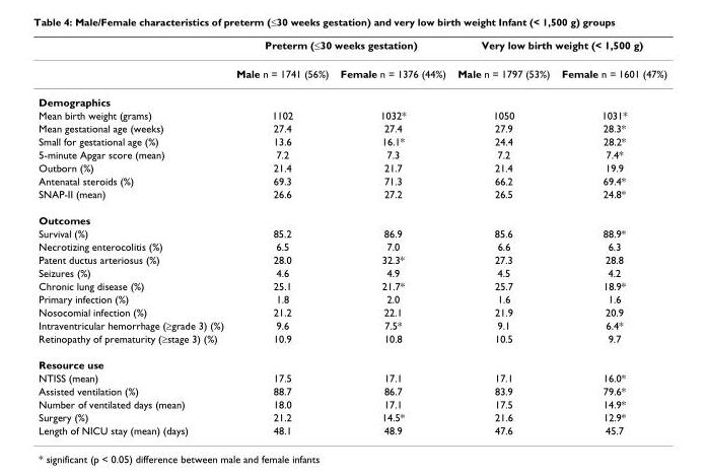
<table><thead><tr><td rowspan="2"></td><td colspan="2">Preterm (≤30 weeks gestation)</td><td colspan="2">Very low birth weight (&lt; 1,500 g)</td></tr><tr><td>Male n = 1741 (56%)</td><td>Female n = 1376 (44%)</td><td>Male n = 1797 (53%)</td><td>Female n = 1601 (47%)</td></tr></thead><tbody><tr><td colspan="5">Demographics</td></tr><tr><td>Mean birth weight (grams)</td><td>1102</td><td>1032*</td><td>1050</td><td>1031*</td></tr><tr><td>Mean gestational age (weeks)</td><td>27.4</td><td>27.4</td><td>27.9</td><td>28.3*</td></tr><tr><td>Small for gestational age (%)</td><td>13.6</td><td>16.1*</td><td>24.4</td><td>28.2*</td></tr><tr><td>5-minute Apgar score (mean)</td><td>7.2</td><td>7.3</td><td>7.2</td><td>7.4*</td></tr><tr><td>Outborn (%)</td><td>21.4</td><td>21.7</td><td>21.4</td><td>19.9</td></tr><tr><td>Antenatal steroids (%)</td><td>69.3</td><td>71.3</td><td>66.2</td><td>69.4*</td></tr><tr><td>SNAP-II (mean)</td><td>26.6</td><td>27.2</td><td>26.5</td><td>24.8*</td></tr><tr><td colspan="5">Outcomes</td></tr><tr><td>Survival (%)</td><td>85.2</td><td>86.9</td><td>85.6</td><td>88.9*</td></tr><tr><td>Necrotizing enterocolitis (%)</td><td>6.5</td><td>7.0</td><td>6.6</td><td>6.3</td></tr><tr><td>Patent ductus arteriosus (%)</td><td>28.0</td><td>32.3*</td><td>27.3</td><td>28.8</td></tr><tr><td>Seizures (%)</td><td>4.6</td><td>4.9</td><td>4.5</td><td>4.2</td></tr><tr><td>Chronic lung disease (%)</td><td>25.1</td><td>21.7*</td><td>25.7</td><td>18.9*</td></tr><tr><td>Primary infection (%)</td><td>1.8</td><td>2.0</td><td>1.6</td><td>1.6</td></tr><tr><td>Nosocomial infection (%)</td><td>21.2</td><td>22.1</td><td>21.9</td><td>20.9</td></tr><tr><td>Intraventricular hemorrhage (≥grade 3) (%)</td><td>9.6</td><td>7.5*</td><td>9.1</td><td>6.4*</td></tr><tr><td>Retinopathy of prematurity (≥stage 3) (%)</td><td>10.9</td><td>10.8</td><td>10.5</td><td>9.7</td></tr><tr><td colspan="5">Resource use</td></tr><tr><td>NTISS (mean)</td><td>17.5</td><td>17.1</td><td>17.1</td><td>16.0*</td></tr><tr><td>Assisted ventilation (%)</td><td>88.7</td><td>86.7</td><td>83.9</td><td>79.6*</td></tr><tr><td>Number of ventilated days (mean)</td><td>18.0</td><td>17.1</td><td>17.5</td><td>14.9*</td></tr><tr><td>Surgery (%)</td><td>21.2</td><td>14.5*</td><td>21.6</td><td>12.9*</td></tr><tr><td>Length of NICU stay (mean) (days)</td><td>48.1</td><td>48.9</td><td>47.6</td><td>45.7</td></tr></tbody></table>